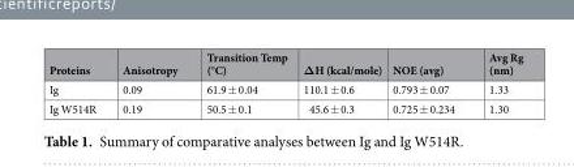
<table><thead><tr><td>Proteins</td><td>Anisotropy</td><td>Transition Temp (°C)</td><td>ΔH (kcal/mole)</td><td>NOE (avg)</td><td>Avg Rg (nm)</td></tr></thead><tbody><tr><td>Ig</td><td>0.09</td><td>61.9 ± 0.04</td><td>110.1 ± 0.6</td><td>0.793 ± 0.07</td><td>1.33</td></tr><tr><td>Ig W514R</td><td>0.19</td><td>50.5 ± 0.1</td><td>45.6 ± 0.3</td><td>0.725 ± 0.234</td><td>1.30</td></tr></tbody></table>